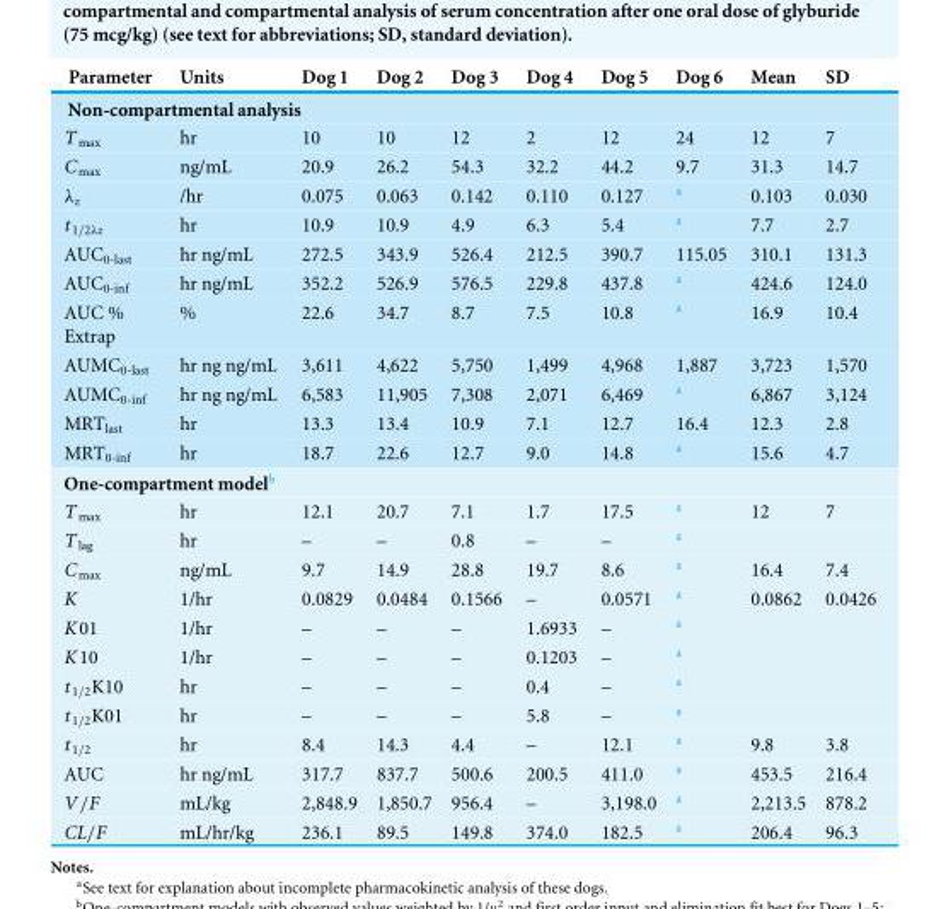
<table><thead><tr><td>Parameter</td><td>Units</td><td>Dog 1</td><td>Dog 2</td><td>Dog 3</td><td>Dog 4</td><td>Dog 5</td><td>Dog 6</td><td>Mean</td><td>SD</td></tr></thead><tbody><tr><td colspan="10">Non-compartmental analysis</td></tr><tr><td>T <sub>max</sub></td><td>hr</td><td>10</td><td>10</td><td>12</td><td>2</td><td>12</td><td>24</td><td>12</td><td>7</td></tr><tr><td>C<sub>max</sub></td><td>ng/mL</td><td>20.9</td><td>26.2</td><td>54.3</td><td>32.2</td><td>44.2</td><td>9.7</td><td>31.3</td><td>14.7</td></tr><tr><td>λ<sub>z</sub></td><td>/hr</td><td>0.075</td><td>0.063</td><td>0.142</td><td>0.110</td><td>0.127</td><td><sup>a</sup></td><td>0.103</td><td>0.030</td></tr><tr><td>t 1/2λz</td><td>hr</td><td>10.9</td><td>10.9</td><td>4.9</td><td>6.3</td><td>5.4</td><td><sup>a</sup></td><td>7.7</td><td>2.7</td></tr><tr><td>AUC<sub>0-last</sub></td><td>hr ng/mL</td><td>272.5</td><td>343.9</td><td>526.4</td><td>212.5</td><td>390.7</td><td>115.05</td><td>310.1</td><td>131.3</td></tr><tr><td>AUC<sub>0-inf</sub></td><td>hr ng/mL</td><td>352.2</td><td>526.9</td><td>576.5</td><td>229.8</td><td>437.8</td><td><sup>a</sup></td><td>424.6</td><td>124.0</td></tr><tr><td>AUC % Extrap</td><td>%</td><td>22.6</td><td>34.7</td><td>8.7</td><td>7.5</td><td>10.8</td><td><sup>a</sup></td><td>16.9</td><td>10.4</td></tr><tr><td>AUMC<sub>0-last</sub></td><td>hr ng ng/mL</td><td>3,611</td><td>4,622</td><td>5,750</td><td>1,499</td><td>4,968</td><td>1,887</td><td>3,723</td><td>1,570</td></tr><tr><td>AUMC<sub>0-inf</sub></td><td>hr ng ng/mL</td><td>6,583</td><td>11,905</td><td>7,308</td><td>2,071</td><td>6,469</td><td><sup>a</sup></td><td>6,867</td><td>3,124</td></tr><tr><td>MRT<sub>last</sub></td><td>hr</td><td>13.3</td><td>13.4</td><td>10.9</td><td>7.1</td><td>12.7</td><td>16.4</td><td>12.3</td><td>2.8</td></tr><tr><td>MRT<sub>0-inf</sub></td><td>hr</td><td>18.7</td><td>22.6</td><td>12.7</td><td>9.0</td><td>14.8</td><td><sup>a</sup></td><td>15.6</td><td>4.7</td></tr><tr><td colspan="10">One-compartment model<sup>b</sup></td></tr><tr><td>T <sub>max</sub></td><td>hr</td><td>12.1</td><td>20.7</td><td>7.1</td><td>1.7</td><td>17.5</td><td><sup>a</sup></td><td>12</td><td>7</td></tr><tr><td>T <sub>lag</sub></td><td>hr</td><td>–</td><td>–</td><td>0.8</td><td>–</td><td>–</td><td><sup>a</sup></td><td></td><td></td></tr><tr><td>C<sub>max</sub></td><td>ng/mL</td><td>9.7</td><td>14.9</td><td>28.8</td><td>19.7</td><td>8.6</td><td><sup>a</sup></td><td>16.4</td><td>7.4</td></tr><tr><td>K</td><td>1/hr</td><td>0.0829</td><td>0.0484</td><td>0.1566</td><td>–</td><td>0.0571</td><td><sup>a</sup></td><td>0.0862</td><td>0.0426</td></tr><tr><td>K01</td><td>1/hr</td><td>–</td><td>–</td><td>–</td><td>1.6933</td><td>–</td><td><sup>a</sup></td><td></td><td></td></tr><tr><td>K10</td><td>1/hr</td><td>–</td><td>–</td><td>–</td><td>0.1203</td><td>–</td><td><sup>a</sup></td><td></td><td></td></tr><tr><td>t 1/2K10</td><td>hr</td><td>–</td><td>–</td><td>–</td><td>0.4</td><td>–</td><td><sup>a</sup></td><td></td><td></td></tr><tr><td>t 1/2K01</td><td>hr</td><td>–</td><td>–</td><td>–</td><td>5.8</td><td>–</td><td><sup>a</sup></td><td></td><td></td></tr><tr><td>t 1/2</td><td>hr</td><td>8.4</td><td>14.3</td><td>4.4</td><td>–</td><td>12.1</td><td><sup>a</sup></td><td>9.8</td><td>3.8</td></tr><tr><td>AUC</td><td>hr ng/mL</td><td>317.7</td><td>837.7</td><td>500.6</td><td>200.5</td><td>411.0</td><td><sup>a</sup></td><td>453.5</td><td>216.4</td></tr><tr><td>V /F</td><td>mL/kg</td><td>2,848.9</td><td>1,850.7</td><td>956.4</td><td>–</td><td>3,198.0</td><td><sup>a</sup></td><td>2,213.5</td><td>878.2</td></tr><tr><td>CL/F</td><td>mL/hr/kg</td><td>236.1</td><td>89.5</td><td>149.8</td><td>374.0</td><td>182.5</td><td><sup>a</sup></td><td>206.4</td><td>96.3</td></tr></tbody></table>